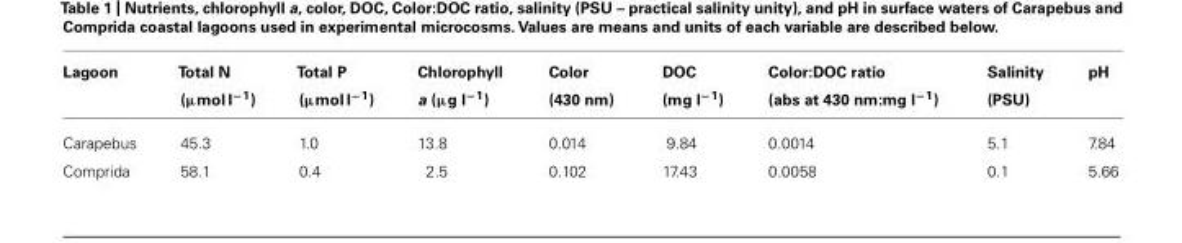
<table><thead><tr><td>Lagoon</td><td>Total N (μmol l<sup>−1</sup>)</td><td>Total P (μmol l<sup>−1</sup>)</td><td>Chlorophyll a (μg l<sup>−1</sup>)</td><td>Color (430 nm)</td><td>DOC (mg l<sup>−1</sup>)</td><td>Color:DOC ratio (abs at 430 nm:mg l<sup>−1</sup>)</td><td>Salinity (PSU)</td><td>pH</td></tr></thead><tbody><tr><td>Carapebus</td><td>45.3</td><td>1.0</td><td>13.8</td><td>0.014</td><td>9.84</td><td>0.0014</td><td>5.1</td><td>7.84</td></tr><tr><td>Comprida</td><td>58.1</td><td>0.4</td><td>2.5</td><td>0.102</td><td>17.43</td><td>0.0058</td><td>0.1</td><td>5.66</td></tr></tbody></table>